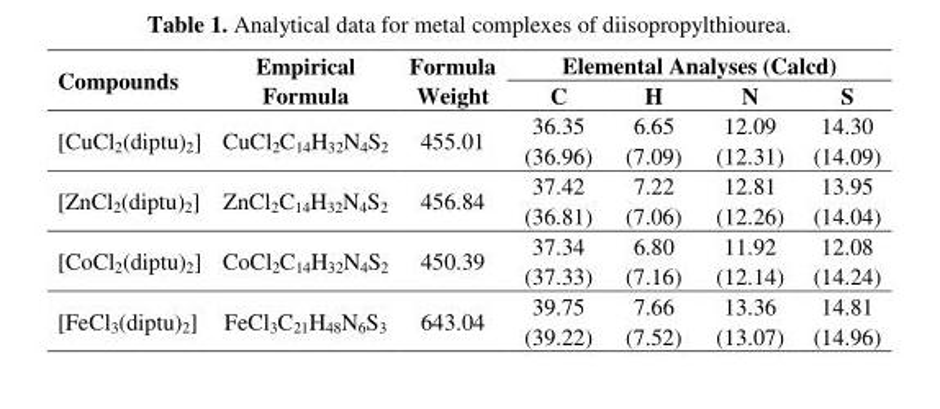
<table><thead><tr><td rowspan="2">Compounds</td><td rowspan="2">Empirical Formula</td><td rowspan="2">Formula Weight</td><td colspan="4">Elemental Analyses (Calcd)</td></tr><tr><td>C</td><td>H</td><td>N</td><td>S</td></tr></thead><tbody><tr><td>[CuCl<sub>2</sub>(diptu)<sub>2</sub>]</td><td>CuCl<sub>2</sub>C<sub>14</sub>H<sub>32</sub>N<sub>4</sub>S<sub>2</sub></td><td>455.01</td><td>36.35 (36.96)</td><td>6.65 (7.09)</td><td>12.09 (12.31)</td><td>14.30 (14.09)</td></tr><tr><td>[ZnCl<sub>2</sub>(diptu)<sub>2</sub>]</td><td>ZnCl<sub>2</sub>C<sub>14</sub>H<sub>32</sub>N<sub>4</sub>S<sub>2</sub></td><td>456.84</td><td>37.42 (36.81)</td><td>7.22 (7.06)</td><td>12.81 (12.26)</td><td>13.95 (14.04)</td></tr><tr><td>[CoCl<sub>2</sub>(diptu)<sub>2</sub>]</td><td>CoCl<sub>2</sub>C<sub>14</sub>H<sub>32</sub>N<sub>4</sub>S<sub>2</sub></td><td>450.39</td><td>37.34 (37.33)</td><td>6.80 (7.16)</td><td>11.92 (12.14)</td><td>12.08 (14.24)</td></tr><tr><td>[FeCl<sub>3</sub>(diptu)<sub>2</sub>]</td><td>FeCl<sub>3</sub>C<sub>21</sub>H<sub>48</sub>N<sub>6</sub>S<sub>3</sub></td><td>643.04</td><td>39.75 (39.22)</td><td>7.66 (7.52)</td><td>13.36 (13.07)</td><td>14.81 (14.96)</td></tr></tbody></table>